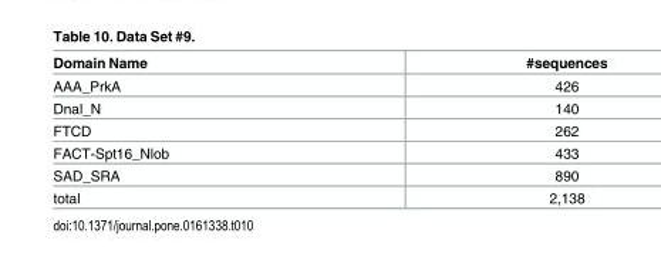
<table><thead><tr><td>Domain Name</td><td>#sequences</td></tr></thead><tbody><tr><td>AAA_PrkA</td><td>426</td></tr><tr><td>Dnal_N</td><td>140</td></tr><tr><td>FTCD</td><td>262</td></tr><tr><td>FACT-Spt16_Nlob</td><td>433</td></tr><tr><td>SAD_SRA</td><td>890</td></tr><tr><td>total</td><td>2,138</td></tr></tbody></table>